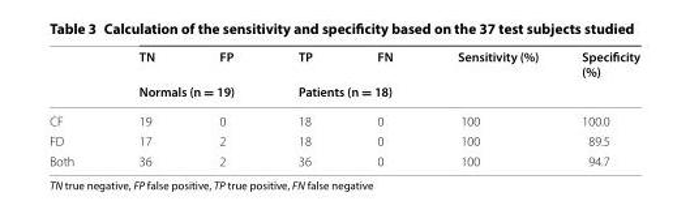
<table><thead><tr><td rowspan="2"></td><td>TN</td><td>FP</td><td>TP</td><td>FN</td><td rowspan="2">Sensitivity (%)</td><td rowspan="2">Specificity (%)</td></tr><tr><td colspan="2">Normals (n = 19)</td><td colspan="2">Patients (n = 18)</td></tr></thead><tbody><tr><td>CF</td><td>19</td><td>0</td><td>18</td><td>0</td><td>100</td><td>100.0</td></tr><tr><td>FD</td><td>17</td><td>2</td><td>18</td><td>0</td><td>100</td><td>89.5</td></tr><tr><td>Both</td><td>36</td><td>2</td><td>36</td><td>0</td><td>100</td><td>94.7</td></tr></tbody></table>